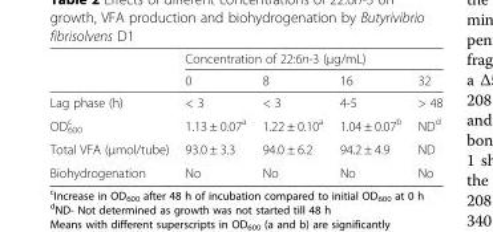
<table><thead><tr><td rowspan="2"></td><td colspan="4">Concentration of 22:6n-3 (μg/mL)</td></tr><tr><td>0</td><td>8</td><td>16</td><td>32</td></tr></thead><tbody><tr><td>Lag phase (h)</td><td>&lt; 3</td><td>&lt; 3</td><td>4-5</td><td>&gt; 48</td></tr><tr><td>OD<sub>600</sub> <sup>c</sup></td><td>1.13 ± 0.07<sup>a</sup></td><td>1.22 ± 0.10<sup>a</sup></td><td>1.04 ± 0.07<sup>b</sup></td><td>ND<sup>d</sup></td></tr><tr><td>Total VFA (μmol/tube)</td><td>93.0 ± 3.3</td><td>94.0 ± 6.2</td><td>94.2 ± 4.9</td><td>ND</td></tr><tr><td>Biohydrogenation</td><td>No</td><td>No</td><td>No</td><td>No</td></tr></tbody></table>